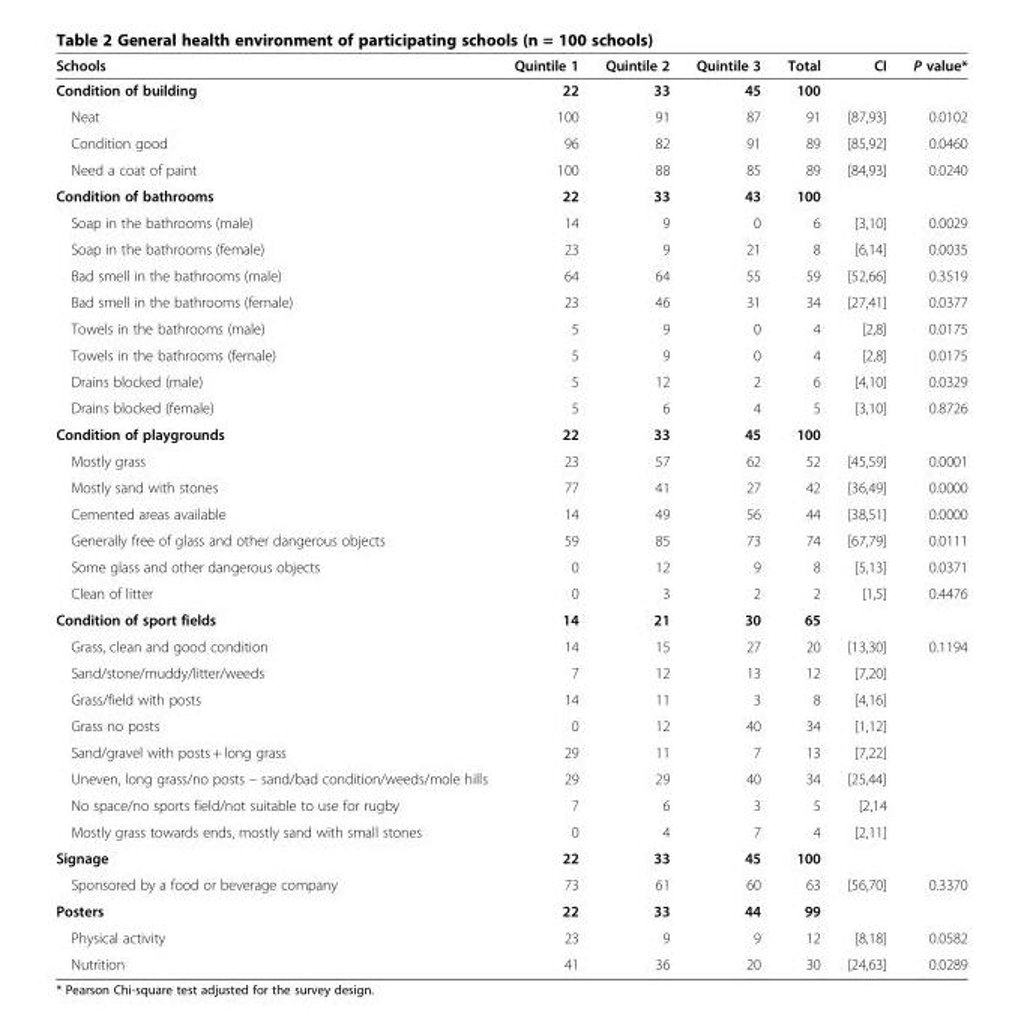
<table><thead><tr><td>Schools</td><td>Quintile 1</td><td>Quintile 2</td><td>Quintile 3</td><td>Total</td><td>CI</td><td>P value*</td></tr></thead><tbody><tr><td>Condition of building</td><td>22</td><td>33</td><td>45</td><td>100</td><td></td><td></td></tr><tr><td>Neat</td><td>100</td><td>91</td><td>87</td><td>91</td><td>[87,93]</td><td>0.0102</td></tr><tr><td>Condition good</td><td>96</td><td>82</td><td>91</td><td>89</td><td>[85,92]</td><td>0.0460</td></tr><tr><td>Need a coat of paint</td><td>100</td><td>88</td><td>85</td><td>89</td><td>[84,93]</td><td>0.0240</td></tr><tr><td>Condition of bathrooms</td><td>22</td><td>33</td><td>43</td><td>100</td><td></td><td></td></tr><tr><td>Soap in the bathrooms (male)</td><td>14</td><td>9</td><td>0</td><td>6</td><td>[3,10]</td><td>0.0029</td></tr><tr><td>Soap in the bathrooms (female)</td><td>23</td><td>9</td><td>21</td><td>8</td><td>[6,14]</td><td>0.0035</td></tr><tr><td>Bad smell in the bathrooms (male)</td><td>64</td><td>64</td><td>55</td><td>59</td><td>[52,66]</td><td>0.3519</td></tr><tr><td>Bad smell in the bathrooms (female)</td><td>23</td><td>46</td><td>31</td><td>34</td><td>[27,41]</td><td>0.0377</td></tr><tr><td>Towels in the bathrooms (male)</td><td>5</td><td>9</td><td>0</td><td>4</td><td>[2,8]</td><td>0.0175</td></tr><tr><td>Towels in the bathrooms (female)</td><td>5</td><td>9</td><td>0</td><td>4</td><td>[2,8]</td><td>0.0175</td></tr><tr><td>Drains blocked (male)</td><td>5</td><td>12</td><td>2</td><td>6</td><td>[4,10]</td><td>0.0329</td></tr><tr><td>Drains blocked (female)</td><td>5</td><td>6</td><td>4</td><td>5</td><td>[3,10]</td><td>0.8726</td></tr><tr><td>Condition of playgrounds</td><td>22</td><td>33</td><td>45</td><td>100</td><td></td><td></td></tr><tr><td>Mostly grass</td><td>23</td><td>57</td><td>62</td><td>52</td><td>[45,59]</td><td>0.0001</td></tr><tr><td>Mostly sand with stones</td><td>77</td><td>41</td><td>27</td><td>42</td><td>[36,49]</td><td>0.0000</td></tr><tr><td>Cemented areas available</td><td>14</td><td>49</td><td>56</td><td>44</td><td>[38,51]</td><td>0.0000</td></tr><tr><td>Generally free of glass and other dangerous objects</td><td>59</td><td>85</td><td>73</td><td>74</td><td>[67,79]</td><td>0.0111</td></tr><tr><td>Some glass and other dangerous objects</td><td>0</td><td>12</td><td>9</td><td>8</td><td>[5,13]</td><td>0.0371</td></tr><tr><td>Clean of litter</td><td>0</td><td>3</td><td>2</td><td>2</td><td>[1,5]</td><td>0.4476</td></tr><tr><td>Condition of sport fields</td><td>14</td><td>21</td><td>30</td><td>65</td><td></td><td></td></tr><tr><td>Grass, clean and good condition</td><td>14</td><td>15</td><td>27</td><td>20</td><td>[13,30]</td><td>0.1194</td></tr><tr><td>Sand/stone/muddy/litter/weeds</td><td>7</td><td>12</td><td>13</td><td>12</td><td>[7,20]</td><td></td></tr><tr><td>Grass/field with posts</td><td>14</td><td>11</td><td>3</td><td>8</td><td>[4,16]</td><td></td></tr><tr><td>Grass no posts</td><td>0</td><td>12</td><td>40</td><td>34</td><td>[1,12]</td><td></td></tr><tr><td>Sand/gravel with posts + long grass</td><td>29</td><td>11</td><td>7</td><td>13</td><td>[7,22]</td><td></td></tr><tr><td>Uneven, long grass/no posts – sand/bad condition/weeds/mole hills</td><td>29</td><td>29</td><td>40</td><td>34</td><td>[25,44]</td><td></td></tr><tr><td>No space/no sports field/not suitable to use for rugby</td><td>7</td><td>6</td><td>3</td><td>5</td><td>[2,14</td><td></td></tr><tr><td>Mostly grass towards ends, mostly sand with small stones</td><td>0</td><td>4</td><td>7</td><td>4</td><td>[2,11]</td><td></td></tr><tr><td>Signage</td><td>22</td><td>33</td><td>45</td><td>100</td><td></td><td></td></tr><tr><td>Sponsored by a food or beverage company</td><td>73</td><td>61</td><td>60</td><td>63</td><td>[56,70]</td><td>0.3370</td></tr><tr><td>Posters</td><td>22</td><td>33</td><td>44</td><td>99</td><td></td><td></td></tr><tr><td>Physical activity</td><td>23</td><td>9</td><td>9</td><td>12</td><td>[8,18]</td><td>0.0582</td></tr><tr><td>Nutrition</td><td>41</td><td>36</td><td>20</td><td>30</td><td>[24,63]</td><td>0.0289</td></tr></tbody></table>